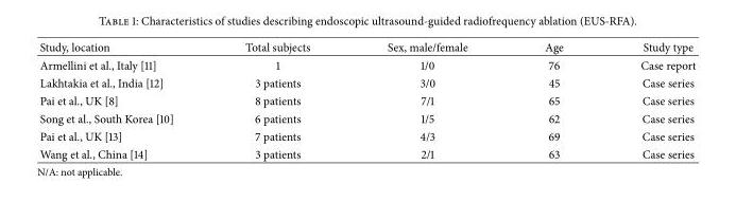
<table><thead><tr><td>Study, location</td><td>Total subjects</td><td>Sex, male/female</td><td>Age</td><td>Study type</td></tr></thead><tbody><tr><td>Armellini et al., Italy [11]</td><td>1</td><td>1/0</td><td>76</td><td>Case report</td></tr><tr><td>Lakhtakia et al., India [12]</td><td>3 patients</td><td>3/0</td><td>45</td><td>Case series</td></tr><tr><td>Pai et al., UK [8]</td><td>8 patients</td><td>7/1</td><td>65</td><td>Case series</td></tr><tr><td>Song et al., South Korea [10]</td><td>6 patients</td><td>1/5</td><td>62</td><td>Case series</td></tr><tr><td>Pai et al., UK [13]</td><td>7 patients</td><td>4/3</td><td>69</td><td>Case series</td></tr><tr><td>Wang et al., China [14]</td><td>3 patients</td><td>2/1</td><td>63</td><td>Case series</td></tr></tbody></table>